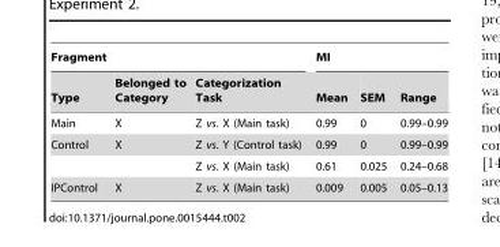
<table><thead><tr><td colspan="3">Fragment</td><td colspan="3">MI</td></tr><tr><td>Type</td><td>Belonged to Category</td><td>Categorization Task</td><td>Mean</td><td>SEM</td><td>Range</td></tr></thead><tbody><tr><td>Main</td><td>X</td><td>Z vs. X (Main task)</td><td>0.99</td><td>0</td><td>0.99–0.99</td></tr><tr><td rowspan="2">Control</td><td>X</td><td>Z vs. Y (Control task)</td><td>0.99</td><td>0</td><td>0.99–0.99</td></tr><tr><td></td><td>Z vs. X (Main task)</td><td>0.61</td><td>0.025</td><td>0.24–0.68</td></tr><tr><td>IPControl</td><td>X</td><td>Z vs. X (Main task)</td><td>0.009</td><td>0.005</td><td>0.05–0.13</td></tr></tbody></table>